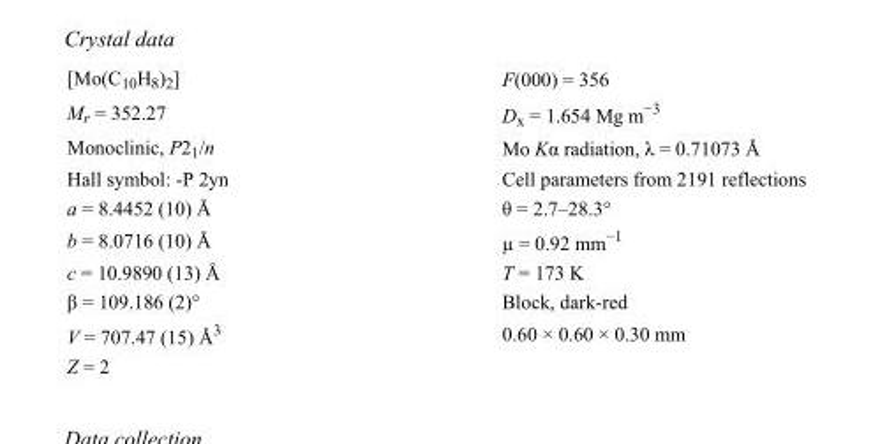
<table><tbody><tr><td>[Mo(C<sub>10</sub>H<sub>8</sub>)<sub>2</sub>]</td><td>F(000) = 356</td></tr><tr><td>M<sub>r</sub> = 352.27</td><td>D<sub>x</sub> = 1.654 Mg m<sup>−3</sup></td></tr><tr><td>Monoclinic, P2<sub>1</sub>/n</td><td>Mo Kα radiation, λ = 0.71073 Å</td></tr><tr><td>Hall symbol: -P 2yn</td><td>Cell parameters from 2191 reflections</td></tr><tr><td>a = 8.4452 (10) Å</td><td>θ = 2.7–28.3°</td></tr><tr><td>b = 8.0716 (10) Å</td><td>µ = 0.92 mm<sup>−1</sup></td></tr><tr><td>c = 10.9890 (13) Å</td><td>T = 173 K</td></tr><tr><td>β = 109.186 (2)°</td><td>Block, dark-red</td></tr><tr><td>V = 707.47 (15) Å<sup>3</sup></td><td>0.60 × 0.60 × 0.30 mm</td></tr><tr><td>Z = 2</td><td></td></tr></tbody></table>